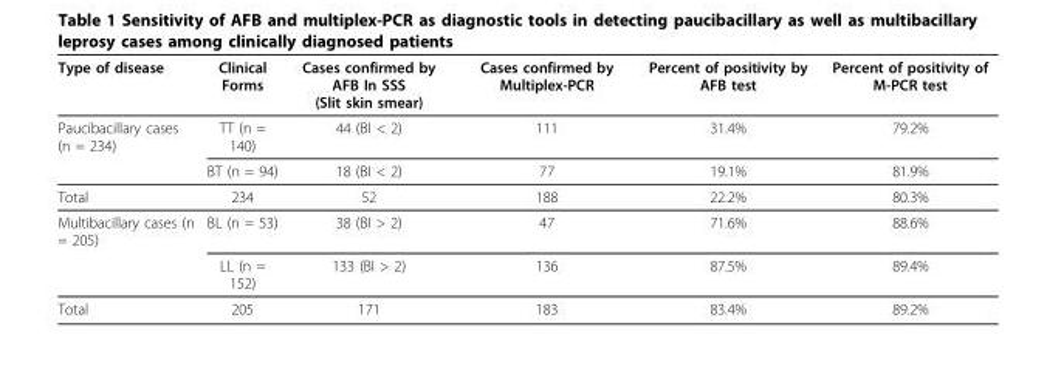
<table><thead><tr><td>Type of disease</td><td>Clinical Forms</td><td>Cases confirmed by AFB In SSS (Slit skin smear)</td><td>Cases confirmed by Multiplex-PCR</td><td>Percent of positivity by AFB test</td><td>Percent of positivity of M-PCR test</td></tr></thead><tbody><tr><td rowspan="2">Paucibacillary cases (n = 234)</td><td>TT (n = 140)</td><td>44 (BI &lt; 2)</td><td>111</td><td>31.4%</td><td>79.2%</td></tr><tr><td>BT (n = 94)</td><td>18 (BI &lt; 2)</td><td>77</td><td>19.1%</td><td>81.9%</td></tr><tr><td>Total</td><td>234</td><td>52</td><td>188</td><td>22.2%</td><td>80.3%</td></tr><tr><td rowspan="2">Multibacillary cases (n = 205)</td><td>BL (n = 53)</td><td>38 (BI &gt; 2)</td><td>47</td><td>71.6%</td><td>88.6%</td></tr><tr><td>LL (n = 152)</td><td>133 (BI &gt; 2)</td><td>136</td><td>87.5%</td><td>89.4%</td></tr><tr><td>Total</td><td>205</td><td>171</td><td>183</td><td>83.4%</td><td>89.2%</td></tr></tbody></table>